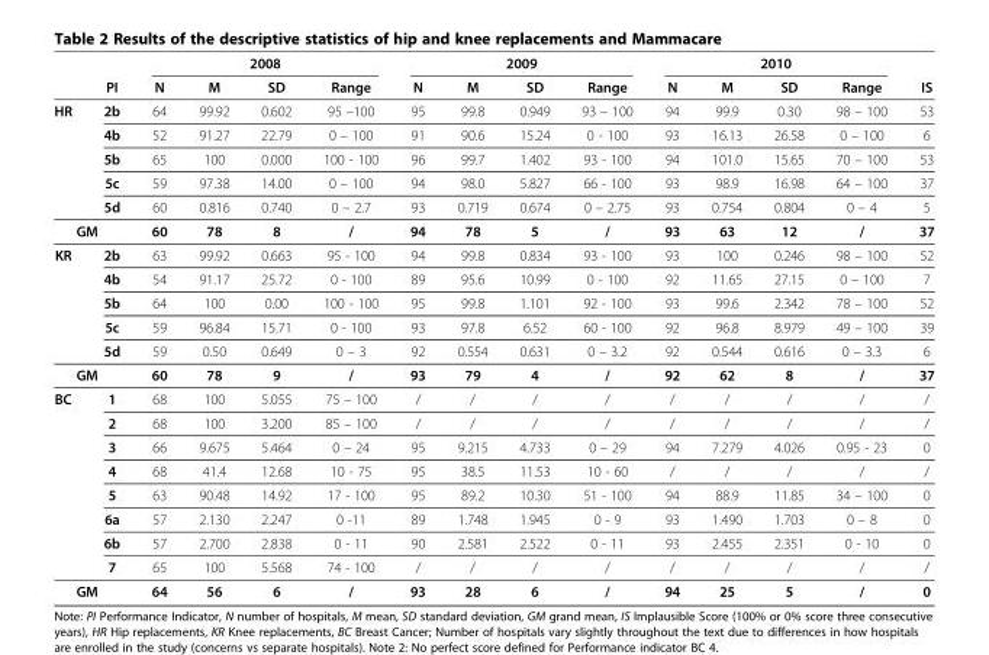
<table><thead><tr><td rowspan="2"></td><td rowspan="2">PI</td><td colspan="4">2008</td><td colspan="4">2009</td><td colspan="4">2010</td><td rowspan="2">IS</td></tr><tr><td>N</td><td>M</td><td>SD</td><td>Range</td><td>N</td><td>M</td><td>SD</td><td>Range</td><td>N</td><td>M</td><td>SD</td><td>Range</td></tr></thead><tbody><tr><td rowspan="5">HR</td><td>2b</td><td>64</td><td>99.92</td><td>0.602</td><td>95 –100</td><td>95</td><td>99.8</td><td>0.949</td><td>93 – 100</td><td>94</td><td>99.9</td><td>0.30</td><td>98 – 100</td><td>53</td></tr><tr><td>4b</td><td>52</td><td>91.27</td><td>22.79</td><td>0 – 100</td><td>91</td><td>90.6</td><td>15.24</td><td>0 - 100</td><td>93</td><td>16.13</td><td>26.58</td><td>0 – 100</td><td>6</td></tr><tr><td>5b</td><td>65</td><td>100</td><td>0.000</td><td>100 - 100</td><td>96</td><td>99.7</td><td>1.402</td><td>93 - 100</td><td>94</td><td>101.0</td><td>15.65</td><td>70 – 100</td><td>53</td></tr><tr><td>5c</td><td>59</td><td>97.38</td><td>14.00</td><td>0 – 100</td><td>94</td><td>98.0</td><td>5.827</td><td>66 - 100</td><td>93</td><td>98.9</td><td>16.98</td><td>64 – 100</td><td>37</td></tr><tr><td>5d</td><td>60</td><td>0.816</td><td>0.740</td><td>0 – 2.7</td><td>93</td><td>0.719</td><td>0.674</td><td>0 – 2.75</td><td>93</td><td>0.754</td><td>0.804</td><td>0 – 4</td><td>5</td></tr><tr><td colspan="2">GM</td><td>60</td><td>78</td><td>8</td><td>/</td><td>94</td><td>78</td><td>5</td><td>/</td><td>93</td><td>63</td><td>12</td><td>/</td><td>37</td></tr><tr><td rowspan="5">KR</td><td>2b</td><td>63</td><td>99.92</td><td>0.663</td><td>95 - 100</td><td>94</td><td>99.8</td><td>0.834</td><td>93 - 100</td><td>93</td><td>100</td><td>0.246</td><td>98 – 100</td><td>52</td></tr><tr><td>4b</td><td>54</td><td>91.17</td><td>25.72</td><td>0 - 100</td><td>89</td><td>95.6</td><td>10.99</td><td>0 - 100</td><td>92</td><td>11.65</td><td>27.15</td><td>0 – 100</td><td>7</td></tr><tr><td>5b</td><td>64</td><td>100</td><td>0.00</td><td>100 - 100</td><td>95</td><td>99.8</td><td>1.101</td><td>92 - 100</td><td>93</td><td>99.6</td><td>2.342</td><td>78 – 100</td><td>52</td></tr><tr><td>5c</td><td>59</td><td>96.84</td><td>15.71</td><td>0 - 100</td><td>93</td><td>97.8</td><td>6.52</td><td>60 - 100</td><td>92</td><td>96.8</td><td>8.979</td><td>49 – 100</td><td>39</td></tr><tr><td>5d</td><td>59</td><td>0.50</td><td>0.649</td><td>0 – 3</td><td>92</td><td>0.554</td><td>0.631</td><td>0 – 3.2</td><td>92</td><td>0.544</td><td>0.616</td><td>0 – 3.3</td><td>6</td></tr><tr><td colspan="2">GM</td><td>60</td><td>78</td><td>9</td><td>/</td><td>93</td><td>79</td><td>4</td><td>/</td><td>92</td><td>62</td><td>8</td><td>/</td><td>37</td></tr><tr><td rowspan="8">BC</td><td>1</td><td>68</td><td>100</td><td>5.055</td><td>75 – 100</td><td>/</td><td>/</td><td>/</td><td>/</td><td>/</td><td>/</td><td>/</td><td>/</td><td>/</td></tr><tr><td>2</td><td>68</td><td>100</td><td>3.200</td><td>85 – 100</td><td>/</td><td>/</td><td>/</td><td>/</td><td>/</td><td>/</td><td>/</td><td>/</td><td>/</td></tr><tr><td>3</td><td>66</td><td>9.675</td><td>5.464</td><td>0 – 24</td><td>95</td><td>9.215</td><td>4.733</td><td>0 – 29</td><td>94</td><td>7.279</td><td>4.026</td><td>0.95 - 23</td><td>0</td></tr><tr><td>4</td><td>68</td><td>41.4</td><td>12.68</td><td>10 - 75</td><td>95</td><td>38.5</td><td>11.53</td><td>10 - 60</td><td>/</td><td>/</td><td>/</td><td>/</td><td>/</td></tr><tr><td>5</td><td>63</td><td>90.48</td><td>14.92</td><td>17 - 100</td><td>95</td><td>89.2</td><td>10.30</td><td>51 - 100</td><td>94</td><td>88.9</td><td>11.85</td><td>34 – 100</td><td>0</td></tr><tr><td>6a</td><td>57</td><td>2.130</td><td>2.247</td><td>0 -11</td><td>89</td><td>1.748</td><td>1.945</td><td>0 - 9</td><td>93</td><td>1.490</td><td>1.703</td><td>0 – 8</td><td>0</td></tr><tr><td>6b</td><td>57</td><td>2.700</td><td>2.838</td><td>0 - 11</td><td>90</td><td>2.581</td><td>2.522</td><td>0 - 11</td><td>93</td><td>2.455</td><td>2.351</td><td>0 - 10</td><td>0</td></tr><tr><td>7</td><td>65</td><td>100</td><td>5.568</td><td>74 - 100</td><td>/</td><td>/</td><td>/</td><td>/</td><td>/</td><td>/</td><td>/</td><td>/</td><td>/</td></tr><tr><td colspan="2">GM</td><td>64</td><td>56</td><td>6</td><td>/</td><td>93</td><td>28</td><td>6</td><td>/</td><td>94</td><td>25</td><td>5</td><td>/</td><td>0</td></tr></tbody></table>